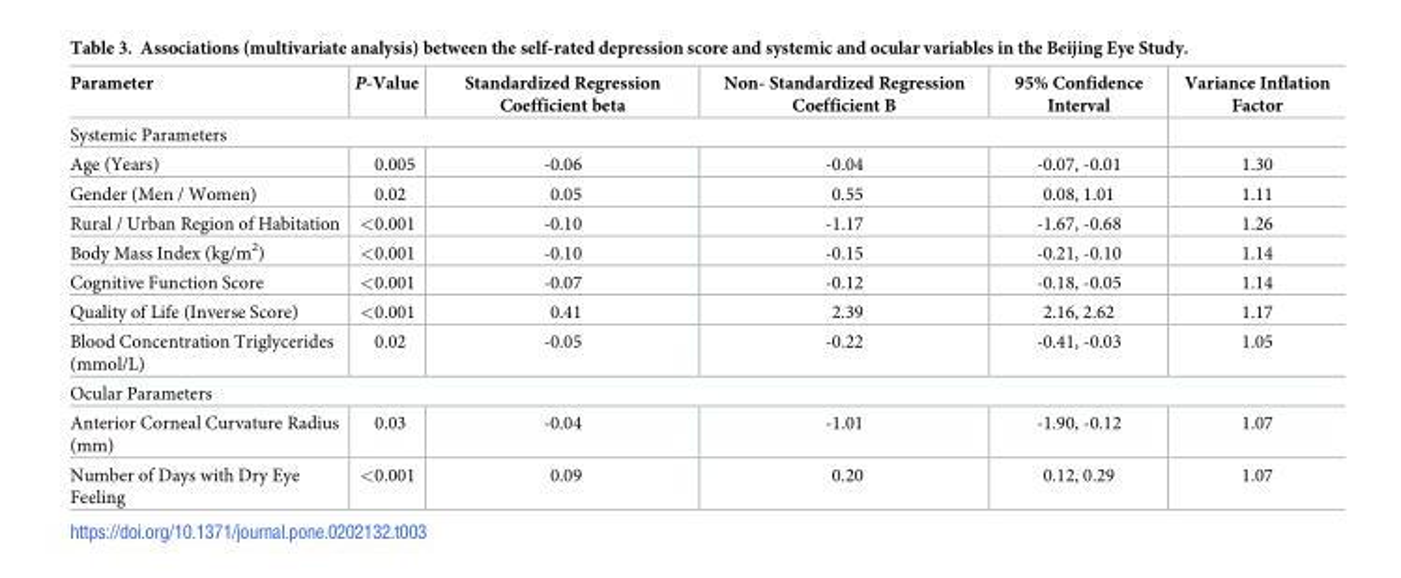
<table><thead><tr><td>Parameter</td><td>P-Value</td><td>Standardized Regression Coefficient beta</td><td>Non- Standardized Regression Coefficient B</td><td>95% Confidence Interval</td><td>Variance Inflation Factor</td></tr></thead><tbody><tr><td colspan="6">Systemic Parameters</td></tr><tr><td>Age (Years)</td><td>0.005</td><td>-0.06</td><td>-0.04</td><td>-0.07, -0.01</td><td>1.30</td></tr><tr><td>Gender (Men / Women)</td><td>0.02</td><td>0.05</td><td>0.55</td><td>0.08, 1.01</td><td>1.11</td></tr><tr><td>Rural / Urban Region of Habitation</td><td>&lt;0.001</td><td>-0.10</td><td>-1.17</td><td>-1.67, -0.68</td><td>1.26</td></tr><tr><td>Body Mass Index (kg/m<sup>2</sup>)</td><td>&lt;0.001</td><td>-0.10</td><td>-0.15</td><td>-0.21, -0.10</td><td>1.14</td></tr><tr><td>Cognitive Function Score</td><td>&lt;0.001</td><td>-0.07</td><td>-0.12</td><td>-0.18, -0.05</td><td>1.14</td></tr><tr><td>Quality of Life (Inverse Score)</td><td>&lt;0.001</td><td>0.41</td><td>2.39</td><td>2.16, 2.62</td><td>1.17</td></tr><tr><td>Blood Concentration Triglycerides (mmol/L)</td><td>0.02</td><td>-0.05</td><td>-0.22</td><td>-0.41, -0.03</td><td>1.05</td></tr><tr><td colspan="6">Ocular Parameters</td></tr><tr><td>Anterior Corneal Curvature Radius (mm)</td><td>0.03</td><td>-0.04</td><td>-1.01</td><td>-1.90, -0.12</td><td>1.07</td></tr><tr><td>Number of Days with Dry Eye Feeling</td><td>&lt;0.001</td><td>0.09</td><td>0.20</td><td>0.12, 0.29</td><td>1.07</td></tr></tbody></table>